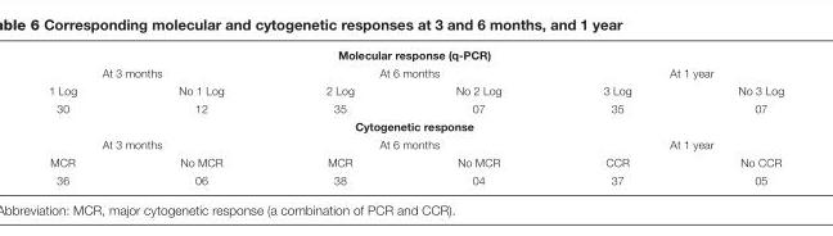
<table><tbody><tr><td colspan="6">Molecular response (q-PCR)</td></tr><tr><td colspan="2">At 3 months</td><td colspan="2">At 6 months</td><td colspan="2">At 1 year</td></tr><tr><td>1 Log</td><td>No 1 Log</td><td>2 Log</td><td>No 2 Log</td><td>3 Log</td><td>No 3 Log</td></tr><tr><td>30</td><td>12</td><td>35</td><td>07</td><td>35</td><td>07</td></tr><tr><td colspan="6">Cytogenetic response</td></tr><tr><td colspan="2">At 3 months</td><td colspan="2">At 6 months</td><td colspan="2">At 1 year</td></tr><tr><td>MCR</td><td>No MCR</td><td>MCR</td><td>No MCR</td><td>CCR</td><td>No CCR</td></tr><tr><td>36</td><td>06</td><td>38</td><td>04</td><td>37</td><td>05</td></tr></tbody></table>